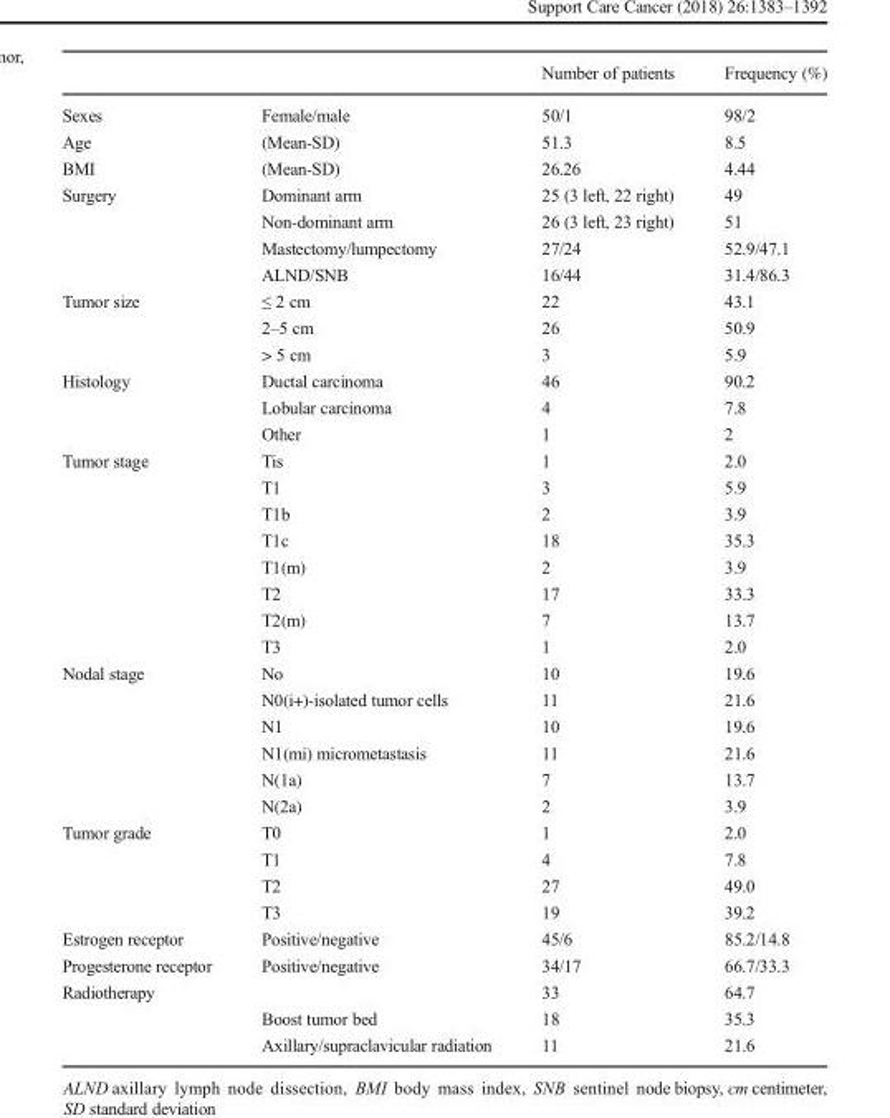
<table><thead><tr><td></td><td></td><td>Number of patients</td><td>Frequency (%)</td></tr></thead><tbody><tr><td>Sexes</td><td>Female/male</td><td>50/1</td><td>98/2</td></tr><tr><td>Age</td><td>(Mean-SD)</td><td>51.3</td><td>8.5</td></tr><tr><td>BMI</td><td>(Mean-SD)</td><td>26.26</td><td>4.44</td></tr><tr><td rowspan="4">Surgery</td><td>Dominant arm</td><td>25 (3 left, 22 right)</td><td>49</td></tr><tr><td>Non-dominant arm</td><td>26 (3 left, 23 right)</td><td>51</td></tr><tr><td>Mastectomy/lumpectomy</td><td>27/24</td><td>52.9/47.1</td></tr><tr><td>ALND/SNB</td><td>16/44</td><td>31.4/86.3</td></tr><tr><td rowspan="3">Tumor size</td><td>≤ 2 cm</td><td>22</td><td>43.1</td></tr><tr><td>2–5 cm</td><td>26</td><td>50.9</td></tr><tr><td>&gt; 5 cm</td><td>3</td><td>5.9</td></tr><tr><td rowspan="3">Histology</td><td>Ductal carcinoma</td><td>46</td><td>90.2</td></tr><tr><td>Lobular carcinoma</td><td>4</td><td>7.8</td></tr><tr><td>Other</td><td>1</td><td>2</td></tr><tr><td rowspan="8">Tumor stage</td><td>Tis</td><td>1</td><td>2.0</td></tr><tr><td>T1</td><td>3</td><td>5.9</td></tr><tr><td>T1b</td><td>2</td><td>3.9</td></tr><tr><td>T1c</td><td>18</td><td>35.3</td></tr><tr><td>T1(m)</td><td>2</td><td>3.9</td></tr><tr><td>T2</td><td>17</td><td>33.3</td></tr><tr><td>T2(m)</td><td>7</td><td>13.7</td></tr><tr><td>T3</td><td>1</td><td>2.0</td></tr><tr><td rowspan="6">Nodal stage</td><td>No</td><td>10</td><td>19.6</td></tr><tr><td>N0(i+)-isolated tumor cells</td><td>11</td><td>21.6</td></tr><tr><td>N1</td><td>10</td><td>19.6</td></tr><tr><td>N1(mi) micrometastasis</td><td>11</td><td>21.6</td></tr><tr><td>N(1a)</td><td>7</td><td>13.7</td></tr><tr><td>N(2a)</td><td>2</td><td>3.9</td></tr><tr><td rowspan="4">Tumor grade</td><td>T0</td><td>1</td><td>2.0</td></tr><tr><td>T1</td><td>4</td><td>7.8</td></tr><tr><td>T2</td><td>27</td><td>49.0</td></tr><tr><td>T3</td><td>19</td><td>39.2</td></tr><tr><td>Estrogen receptor</td><td>Positive/negative</td><td>45/6</td><td>85.2/14.8</td></tr><tr><td>Progesterone receptor</td><td>Positive/negative</td><td>34/17</td><td>66.7/33.3</td></tr><tr><td rowspan="3">Radiotherapy</td><td></td><td>33</td><td>64.7</td></tr><tr><td>Boost tumor bed</td><td>18</td><td>35.3</td></tr><tr><td>Axillary/supraclavicular radiation</td><td>11</td><td>21.6</td></tr></tbody></table>